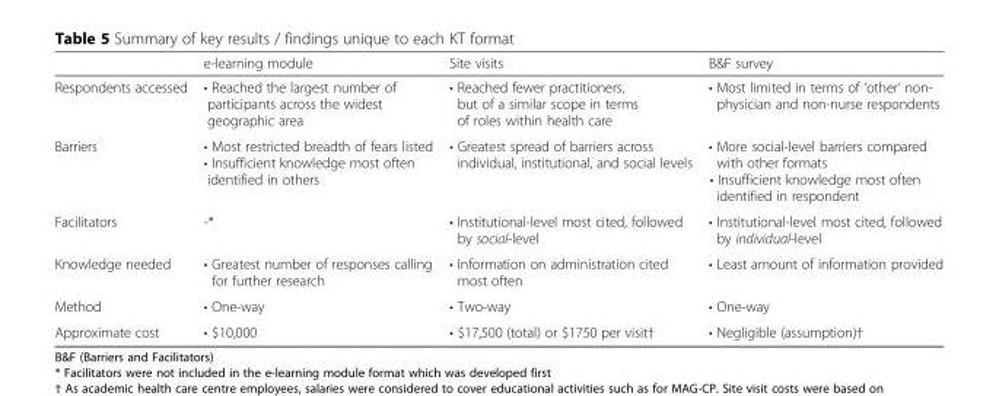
<table><thead><tr><td></td><td>e-learning module</td><td>Site visits</td><td>B&amp;F survey</td></tr></thead><tbody><tr><td>Respondents accessed</td><td>• Reached the largest number of participants across the widest geographic area</td><td>• Reached fewer practitioners, but of a similar scope in terms of roles within health care</td><td>• Most limited in terms of ‘other’ non- physician and non-nurse respondents</td></tr><tr><td>Barriers</td><td>• Most restricted breadth of fears listed • Insufficient knowledge most often identified in others</td><td>• Greatest spread of barriers across individual, institutional, and social levels</td><td>• More social-level barriers compared with other formats • Insufficient knowledge most often identified in respondent</td></tr><tr><td>Facilitators</td><td>-*</td><td>• Institutional-level most cited, followed by social-level</td><td>• Institutional-level most cited, followed by individual-level</td></tr><tr><td>Knowledge needed</td><td>• Greatest number of responses calling for further research</td><td>• Information on administration cited most often</td><td>• Least amount of information provided</td></tr><tr><td>Method</td><td>• One-way</td><td>• Two-way</td><td>• One-way</td></tr><tr><td>Approximate cost</td><td>• $10,000</td><td>• $17,500 (total) or $1750 per visit†</td><td>• Negligible (assumption)†</td></tr></tbody></table>